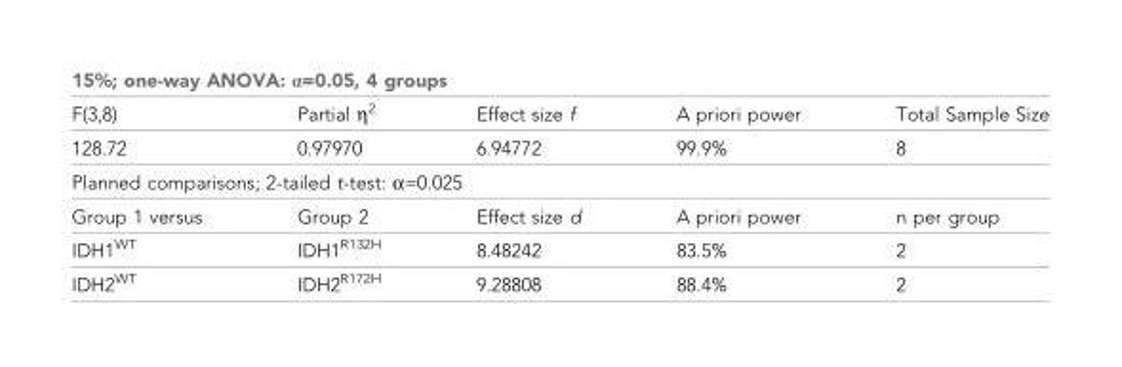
<table><thead><tr><td colspan="5">15%; one-way ANOVA: α=0.05, 4 groups</td></tr><tr><td>F(3,8)</td><td>Partial η<sup>2</sup></td><td>Effect size f</td><td>A priori power</td><td>Total Sample Size</td></tr></thead><tbody><tr><td>128.72</td><td>0.97970</td><td>6.94772</td><td>99.9%</td><td>8</td></tr><tr><td colspan="5">Planned comparisons; 2-tailed t-test: α=0.025</td></tr><tr><td>Group 1 versus</td><td>Group 2</td><td>Effect size d</td><td>A priori power</td><td>n per group</td></tr><tr><td>IDH1<sup>WT</sup></td><td>IDH1<sup>R132H</sup></td><td>8.48242</td><td>83.5%</td><td>2</td></tr><tr><td>IDH2<sup>WT</sup></td><td>IDH2<sup>R172H</sup></td><td>9.28808</td><td>88.4%</td><td>2</td></tr></tbody></table>